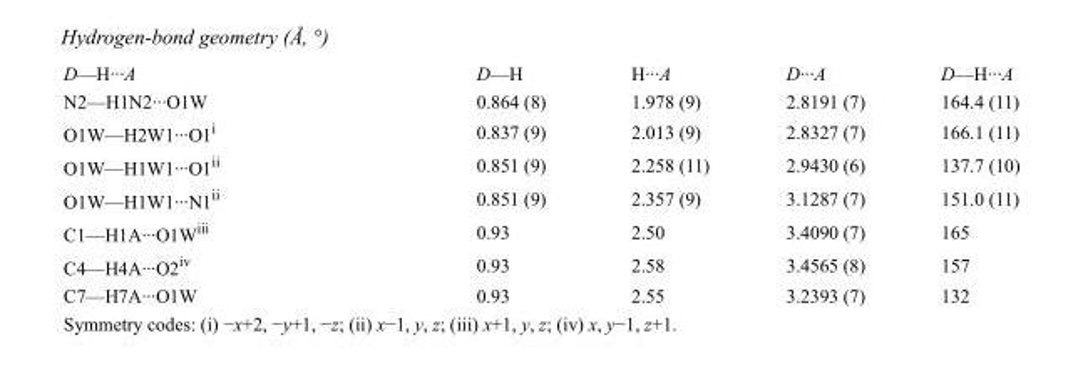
<table><tbody><tr><td>D—H···A</td><td>D—H</td><td>H···A</td><td>D···A</td><td>D—H···A</td></tr><tr><td>N2—H1N2···O1W</td><td>0.864 (8)</td><td>1.978 (9)</td><td>2.8191 (7)</td><td>164.4 (11)</td></tr><tr><td>O1W—H2W1···O1<sup>i</sup></td><td>0.837 (9)</td><td>2.013 (9)</td><td>2.8327 (7)</td><td>166.1 (11)</td></tr><tr><td>O1W—H1W1···O1<sup>ii</sup></td><td>0.851 (9)</td><td>2.258 (11)</td><td>2.9430 (6)</td><td>137.7 (10)</td></tr><tr><td>O1W—H1W1···N1<sup>ii</sup></td><td>0.851 (9)</td><td>2.357 (9)</td><td>3.1287 (7)</td><td>151.0 (11)</td></tr><tr><td>C1—H1A···O1W<sup>iii</sup></td><td>0.93</td><td>2.50</td><td>3.4090 (7)</td><td>165</td></tr><tr><td>C4—H4A···O2<sup>iv</sup></td><td>0.93</td><td>2.58</td><td>3.4565 (8)</td><td>157</td></tr><tr><td>C7—H7A···O1W</td><td>0.93</td><td>2.55</td><td>3.2393 (7)</td><td>132</td></tr></tbody></table>